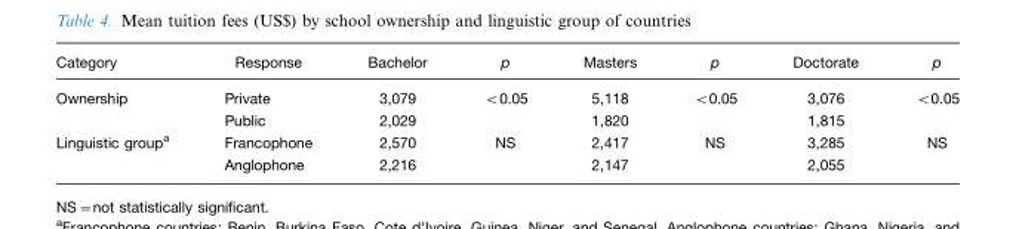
<table><thead><tr><td>Category</td><td>Response</td><td>Bachelor</td><td>p</td><td>Masters</td><td>p</td><td>Doctorate</td><td>p</td></tr></thead><tbody><tr><td rowspan="2">Ownership</td><td>Private</td><td>3,079</td><td>&lt;0.05</td><td>5,118</td><td>&lt;0.05</td><td>3,076</td><td>&lt;0.05</td></tr><tr><td>Public</td><td>2,029</td><td></td><td>1,820</td><td></td><td>1,815</td><td></td></tr><tr><td rowspan="2">Linguistic group<sup>a</sup></td><td>Francophone</td><td>2,570</td><td>NS</td><td>2,417</td><td>NS</td><td>3,285</td><td>NS</td></tr><tr><td>Anglophone</td><td>2,216</td><td></td><td>2,147</td><td></td><td>2,055</td><td></td></tr></tbody></table>